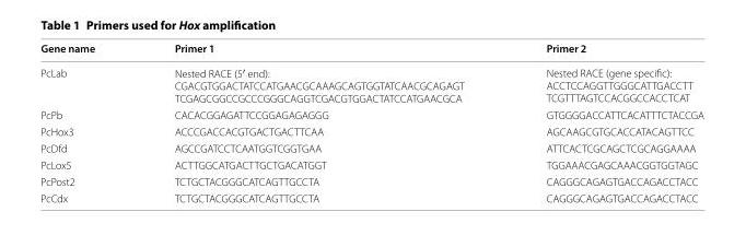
<table><thead><tr><td>Gene name</td><td>Primer 1</td><td>Primer 2</td></tr></thead><tbody><tr><td>PcLab</td><td>Nested RACE (5′ end): CGACGTGGACTATCCATGAACGCAAAGCAGTGGTATCAACGCAGAGT TCGAGCGGCCGCCCGGGCAGGTCGACGTGGACTATCCATGAACGCA</td><td>Nested RACE (gene specific): ACCTCCAGGTTGGGCATTGACCTT TCGTTTAGTCCACGGCCACCTCAT</td></tr><tr><td>PcPb</td><td>CACACGGAGATTCCGGAGAGAGGG</td><td>GTGGGGACCATTCACATTTCTACCGA</td></tr><tr><td>PcHox3</td><td>ACCCGACCACGTGACTGACTTCAA</td><td>AGCAAGCGTGCACCATACAGTTCC</td></tr><tr><td>PcDfd</td><td>AGCCGATCCTCAATGGTCGGTGAA</td><td>ATTCACTCGCAGCTCGCAGGAAAA</td></tr><tr><td>PcLox5</td><td>ACTTGGCATGACTTGCTGACATGGT</td><td>TGGAAACGAGCAAACGGTGGTAGC</td></tr><tr><td>PcPost2</td><td>TCTGCTACGGGCATCAGTTGCCTA</td><td>CAGGGCAGAGTGACCAGACCTACC</td></tr><tr><td>PcCdx</td><td>TCTGCTACGGGCATCAGTTGCCTA</td><td>CAGGGCAGAGTGACCAGACCTACC</td></tr></tbody></table>